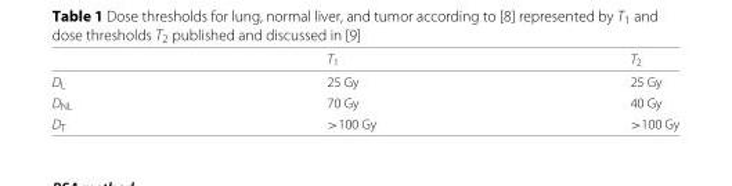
<table><thead><tr><td></td><td>T<sub>1</sub></td><td>T<sub>2</sub></td></tr></thead><tbody><tr><td>D<sub>L</sub></td><td>25 Gy</td><td>25 Gy</td></tr><tr><td>D<sub>NL</sub></td><td>70 Gy</td><td>40 Gy</td></tr><tr><td>D<sub>T</sub></td><td>&gt;100 Gy</td><td>&gt;100 Gy</td></tr></tbody></table>